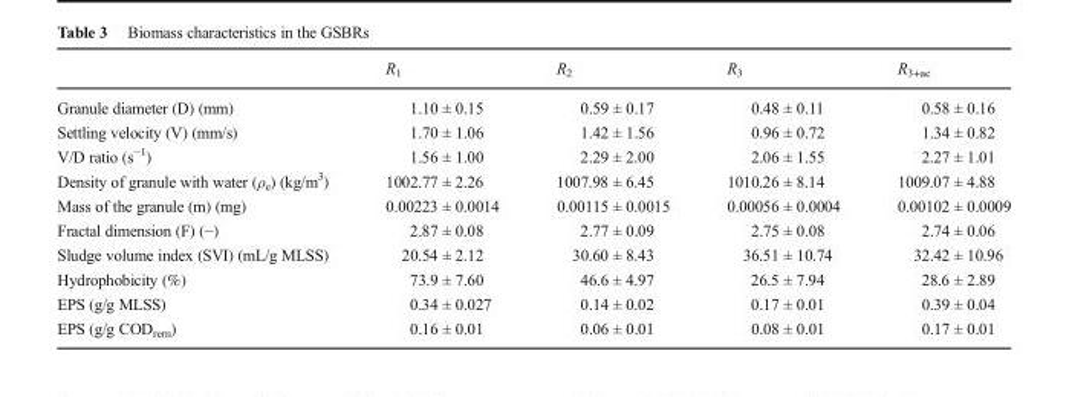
<table><thead><tr><td></td><td>R<sub>1</sub></td><td>R<sub>2</sub></td><td>R<sub>3</sub></td><td>R<sub>3+ac</sub></td></tr></thead><tbody><tr><td>Granule diameter (D) (mm)</td><td>1.10 ± 0.15</td><td>0.59 ± 0.17</td><td>0.48 ± 0.11</td><td>0.58 ± 0.16</td></tr><tr><td>Settling velocity (V) (mm/s)</td><td>1.70 ± 1.06</td><td>1.42 ± 1.56</td><td>0.96 ± 0.72</td><td>1.34 ± 0.82</td></tr><tr><td>V/D ratio (s<sup>−1</sup>)</td><td>1.56 ± 1.00</td><td>2.29 ± 2.00</td><td>2.06 ± 1.55</td><td>2.27 ± 1.01</td></tr><tr><td>Density of granule with water (ρ<sub>e</sub>) (kg/m<sup>3</sup>)</td><td>1002.77 ± 2.26</td><td>1007.98 ± 6.45</td><td>1010.26 ± 8.14</td><td>1009.07 ± 4.88</td></tr><tr><td>Mass of the granule (m) (mg)</td><td>0.00223 ± 0.0014</td><td>0.00115 ± 0.0015</td><td>0.00056 ± 0.0004</td><td>0.00102 ± 0.0009</td></tr><tr><td>Fractal dimension (F) (−)</td><td>2.87 ± 0.08</td><td>2.77 ± 0.09</td><td>2.75 ± 0.08</td><td>2.74 ± 0.06</td></tr><tr><td>Sludge volume index (SVI) (mL/g MLSS)</td><td>20.54 ± 2.12</td><td>30.60 ± 8.43</td><td>36.51 ± 10.74</td><td>32.42 ± 10.96</td></tr><tr><td>Hydrophobicity (%)</td><td>73.9 ± 7.60</td><td>46.6 ± 4.97</td><td>26.5 ± 7.94</td><td>28.6 ± 2.89</td></tr><tr><td>EPS (g/g MLSS)</td><td>0.34 ± 0.027</td><td>0.14 ± 0.02</td><td>0.17 ± 0.01</td><td>0.39 ± 0.04</td></tr><tr><td>EPS (g/g COD<sub>rem</sub>)</td><td>0.16 ± 0.01</td><td>0.06 ± 0.01</td><td>0.08 ± 0.01</td><td>0.17 ± 0.01</td></tr></tbody></table>